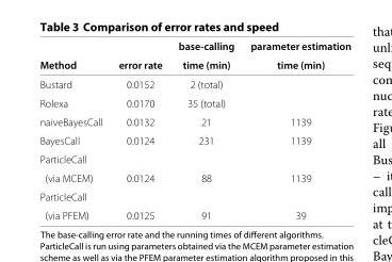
<table><thead><tr><td rowspan="2">Method</td><td rowspan="2">error rate</td><td rowspan="2">base-calling time (min)</td><td rowspan="2">parameter estimation time (min)</td></tr><tr></tr></thead><tbody><tr><td>Bustard</td><td>0.0152</td><td>2 (total)</td><td></td></tr><tr><td>Rolexa</td><td>0.0170</td><td>35 (total)</td><td></td></tr><tr><td>naiveBayesCall</td><td>0.0132</td><td>21</td><td>1139</td></tr><tr><td>BayesCall</td><td>0.0124</td><td>231</td><td>1139</td></tr><tr><td colspan="4">ParticleCall</td></tr><tr><td>(via MCEM)</td><td>0.0124</td><td>88</td><td>1139</td></tr><tr><td colspan="4">ParticleCall</td></tr><tr><td>(via PFEM)</td><td>0.0125</td><td>91</td><td>39</td></tr></tbody></table>